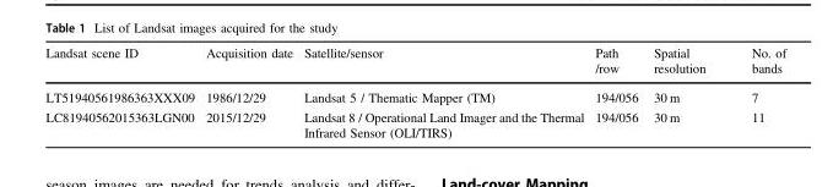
<table><thead><tr><td>Landsat scene ID</td><td>Acquisition date</td><td>Satellite/sensor</td><td>Path /row</td><td>Spatial resolution</td><td>No. of bands</td></tr></thead><tbody><tr><td>LT51940561986363XXX09</td><td>1986/12/29</td><td>Landsat 5 / Thematic Mapper (TM)</td><td>194/056</td><td>30 m</td><td>7</td></tr><tr><td>LC81940562015363LGN00</td><td>2015/12/29</td><td>Landsat 8 / Operational Land Imager and the Thermal Infrared Sensor (OLI/TIRS)</td><td>194/056</td><td>30 m</td><td>11</td></tr></tbody></table>